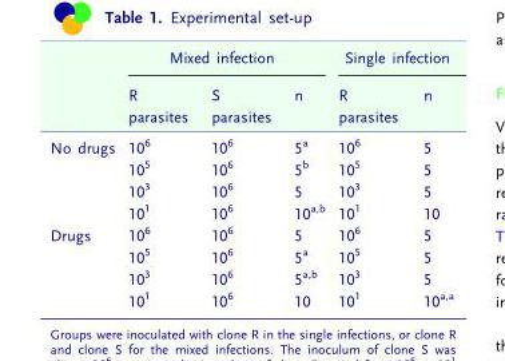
<table><thead><tr><td rowspan="2"></td><td colspan="3">Mixed infection</td><td colspan="2">Single infection</td></tr><tr><td>R parasites</td><td>S parasites</td><td>n</td><td>R parasites</td><td>n</td></tr></thead><tbody><tr><td rowspan="4">No drugs</td><td>10<sup>6</sup></td><td>10<sup>6</sup></td><td>5<sup>a</sup></td><td>10<sup>6</sup></td><td>5</td></tr><tr><td>10<sup>5</sup></td><td>10<sup>6</sup></td><td>5<sup>b</sup></td><td>10<sup>5</sup></td><td>5</td></tr><tr><td>10<sup>3</sup></td><td>10<sup>6</sup></td><td>5</td><td>10<sup>3</sup></td><td>5</td></tr><tr><td>10<sup>1</sup></td><td>10<sup>6</sup></td><td>10<sup>a,b</sup></td><td>10<sup>1</sup></td><td>10</td></tr><tr><td rowspan="4">Drugs</td><td>10<sup>6</sup></td><td>10<sup>6</sup></td><td>5</td><td>10<sup>6</sup></td><td>5</td></tr><tr><td>10<sup>5</sup></td><td>10<sup>6</sup></td><td>5<sup>a</sup></td><td>10<sup>5</sup></td><td>5</td></tr><tr><td>10<sup>3</sup></td><td>10<sup>6</sup></td><td>5<sup>a,b</sup></td><td>10<sup>3</sup></td><td>5</td></tr><tr><td>10<sup>1</sup></td><td>10<sup>6</sup></td><td>10</td><td>10<sup>1</sup></td><td>10<sup>a,a</sup></td></tr></tbody></table>